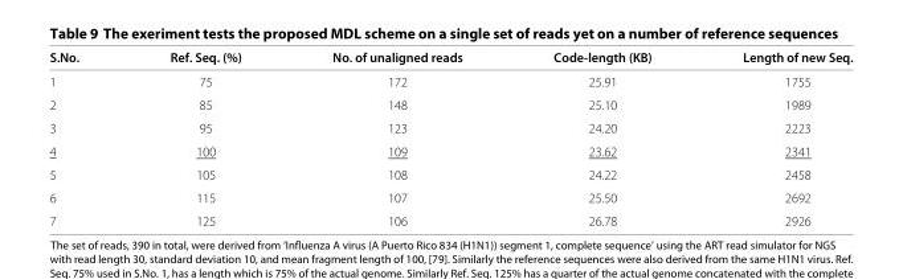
<table><thead><tr><td>S.No.</td><td>Ref. Seq. (%)</td><td>No. of unaligned reads</td><td>Code-length (KB)</td><td>Length of new Seq.</td></tr></thead><tbody><tr><td>1</td><td>75</td><td>172</td><td>25.91</td><td>1755</td></tr><tr><td>2</td><td>85</td><td>148</td><td>25.10</td><td>1989</td></tr><tr><td>3</td><td>95</td><td>123</td><td>24.20</td><td>2223</td></tr><tr><td>4</td><td>100</td><td>109</td><td>23.62</td><td>2341</td></tr><tr><td>5</td><td>105</td><td>108</td><td>24.22</td><td>2458</td></tr><tr><td>6</td><td>115</td><td>107</td><td>25.50</td><td>2692</td></tr><tr><td>7</td><td>125</td><td>106</td><td>26.78</td><td>2926</td></tr></tbody></table>